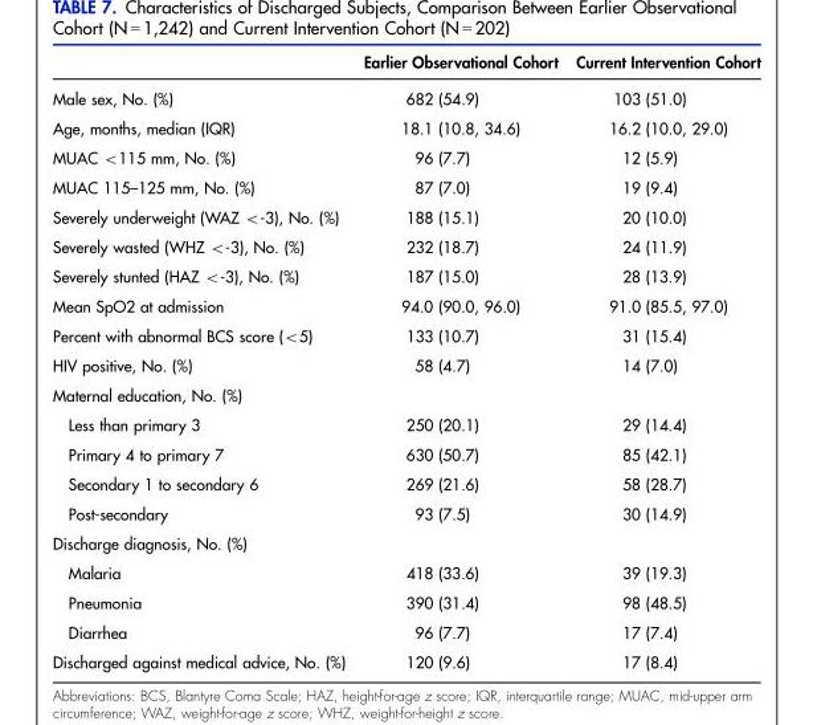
<table><thead><tr><td></td><td>Earlier Observational Cohort</td><td>Current Intervention Cohort</td></tr></thead><tbody><tr><td>Male sex, No. (%)</td><td>682 (54.9)</td><td>103 (51.0)</td></tr><tr><td>Age, months, median (IQR)</td><td>18.1 (10.8, 34.6)</td><td>16.2 (10.0, 29.0)</td></tr><tr><td>MUAC &lt;115 mm, No. (%)</td><td>96 (7.7)</td><td>12 (5.9)</td></tr><tr><td>MUAC 115–125 mm, No. (%)</td><td>87 (7.0)</td><td>19 (9.4)</td></tr><tr><td>Severely underweight (WAZ &lt;-3), No. (%)</td><td>188 (15.1)</td><td>20 (10.0)</td></tr><tr><td>Severely wasted (WHZ &lt;-3), No. (%)</td><td>232 (18.7)</td><td>24 (11.9)</td></tr><tr><td>Severely stunted (HAZ &lt;-3), No. (%)</td><td>187 (15.0)</td><td>28 (13.9)</td></tr><tr><td>Mean SpO2 at admission</td><td>94.0 (90.0, 96.0)</td><td>91.0 (85.5, 97.0)</td></tr><tr><td>Percent with abnormal BCS score (&lt;5)</td><td>133 (10.7)</td><td>31 (15.4)</td></tr><tr><td>HIV positive, No. (%)</td><td>58 (4.7)</td><td>14 (7.0)</td></tr><tr><td colspan="3">Maternal education, No. (%)</td></tr><tr><td>Less than primary 3</td><td>250 (20.1)</td><td>29 (14.4)</td></tr><tr><td>Primary 4 to primary 7</td><td>630 (50.7)</td><td>85 (42.1)</td></tr><tr><td>Secondary 1 to secondary 6</td><td>269 (21.6)</td><td>58 (28.7)</td></tr><tr><td>Post-secondary</td><td>93 (7.5)</td><td>30 (14.9)</td></tr><tr><td colspan="3">Discharge diagnosis, No. (%)</td></tr><tr><td>Malaria</td><td>418 (33.6)</td><td>39 (19.3)</td></tr><tr><td>Pneumonia</td><td>390 (31.4)</td><td>98 (48.5)</td></tr><tr><td>Diarrhea</td><td>96 (7.7)</td><td>17 (7.4)</td></tr><tr><td>Discharged against medical advice, No. (%)</td><td>120 (9.6)</td><td>17 (8.4)</td></tr></tbody></table>